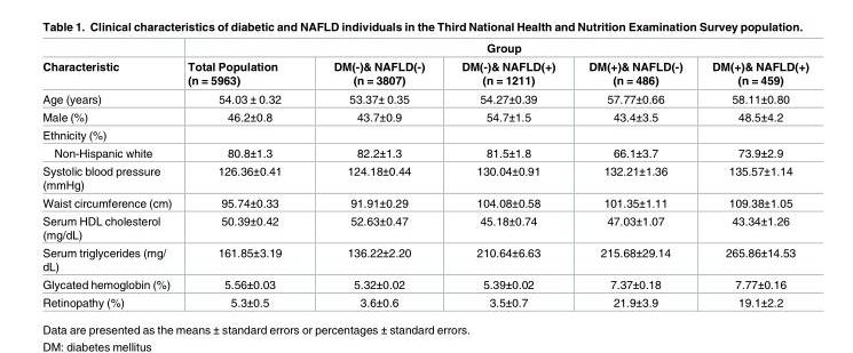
<table><thead><tr><td rowspan="2">Characteristic</td><td colspan="5">Group</td></tr><tr><td>Total Population (n = 5963)</td><td>DM(-)&amp; NAFLD(-) (n = 3807)</td><td>DM(-)&amp; NAFLD(+) (n = 1211)</td><td>DM(+)&amp; NAFLD(-) (n = 486)</td><td>DM(+)&amp; NAFLD(+) (n = 459)</td></tr></thead><tbody><tr><td>Age (years)</td><td>54.03 ± 0.32</td><td>53.37± 0.35</td><td>54.27±0.39</td><td>57.77±0.66</td><td>58.11±0.80</td></tr><tr><td>Male (%)</td><td>46.2±0.8</td><td>43.7±0.9</td><td>54.7±1.5</td><td>43.4±3.5</td><td>48.5±4.2</td></tr><tr><td colspan="6">Ethnicity (%)</td></tr><tr><td>Non-Hispanic white</td><td>80.8±1.3</td><td>82.2±1.3</td><td>81.5±1.8</td><td>66.1±3.7</td><td>73.9±2.9</td></tr><tr><td>Systolic blood pressure (mmHg)</td><td>126.36±0.41</td><td>124.18±0.44</td><td>130.04±0.91</td><td>132.21±1.36</td><td>135.57±1.14</td></tr><tr><td>Waist circumference (cm)</td><td>95.74±0.33</td><td>91.91±0.29</td><td>104.08±0.58</td><td>101.35±1.11</td><td>109.38±1.05</td></tr><tr><td>Serum HDL cholesterol (mg/dL)</td><td>50.39±0.42</td><td>52.63±0.47</td><td>45.18±0.74</td><td>47.03±1.07</td><td>43.34±1.26</td></tr><tr><td>Serum triglycerides (mg/ dL)</td><td>161.85±3.19</td><td>136.22±2.20</td><td>210.64±6.63</td><td>215.68±29.14</td><td>265.86±14.53</td></tr><tr><td>Glycated hemoglobin (%)</td><td>5.56±0.03</td><td>5.32±0.02</td><td>5.39±0.02</td><td>7.37±0.18</td><td>7.77±0.16</td></tr><tr><td>Retinopathy (%)</td><td>5.3±0.5</td><td>3.6±0.6</td><td>3.5±0.7</td><td>21.9±3.9</td><td>19.1±2.2</td></tr></tbody></table>